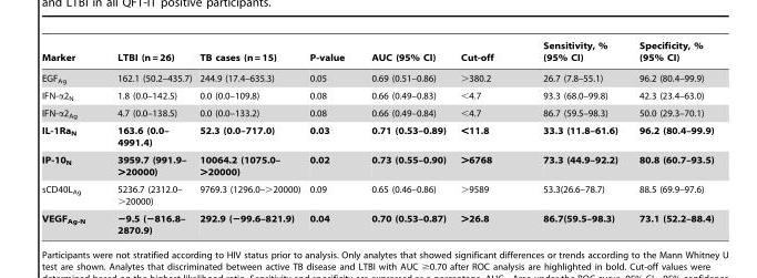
<table><thead><tr><td>Marker</td><td>LTBI (n = 26)</td><td>TB cases (n = 15)</td><td>P-value</td><td>AUC (95% CI)</td><td>Cut-off</td><td>Sensitivity, % (95% CI)</td><td>Specificity, % (95% CI)</td></tr></thead><tbody><tr><td>EGF<sub>Ag</sub></td><td>162.1 (50.2–435.7)</td><td>244.9 (17.4–635.3)</td><td>0.05</td><td>0.69 (0.51–0.86)</td><td>&gt;380.2</td><td>26.7 (7.8–55.1)</td><td>96.2 (80.4–99.9)</td></tr><tr><td>IFN-α2<sub>N</sub></td><td>1.8 (0.0–142.5)</td><td>0.0 (0.0–109.8)</td><td>0.08</td><td>0.66 (0.49–0.83)</td><td>&lt;4.7</td><td>93.3 (68.0–99.8)</td><td>42.3 (23.4–63.0)</td></tr><tr><td>IFN-α2<sub>Ag</sub></td><td>4.7 (0.0–138.5)</td><td>0.0 (0.0–133.2)</td><td>0.08</td><td>0.66 (0.49–0.84)</td><td>&lt;4.7</td><td>86.7 (59.5–98.3)</td><td>50.0 (29.3–70.1)</td></tr><tr><td>IL-1Ra<sub>N</sub></td><td>163.6 (0.0– 4991.4)</td><td>52.3 (0.0–717.0)</td><td>0.03</td><td>0.71 (0.53–0.89)</td><td>&lt;11.8</td><td>33.3 (11.8–61.6)</td><td>96.2 (80.4–99.9)</td></tr><tr><td>IP-10<sub>N</sub></td><td>3959.7 (991.9– &gt;20000)</td><td>10064.2 (1075.0– &gt;20000)</td><td>0.02</td><td>0.73 (0.55–0.90)</td><td>&gt;6768</td><td>73.3 (44.9–92.2)</td><td>80.8 (60.7–93.5)</td></tr><tr><td>sCD40L<sub>Ag</sub></td><td>5236.7 (2312.0– &gt;20000)</td><td>9769.3 (1296.0–&gt;20000)</td><td>0.09</td><td>0.65 (0.46–0.86)</td><td>&gt;9589</td><td>53.3(26.6–78.7)</td><td>88.5 (69.9–97.6)</td></tr><tr><td>VEGF<sub>Ag-N</sub></td><td>−9.5 (−816.8– 2870.9)</td><td>292.9 (−99.6–821.9)</td><td>0.04</td><td>0.70 (0.53–0.87)</td><td>&gt;26.8</td><td>86.7(59.5–98.3)</td><td>73.1 (52.2–88.4)</td></tr></tbody></table>